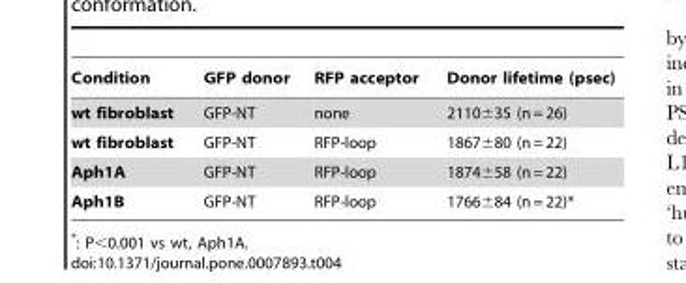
<table><thead><tr><td>Condition</td><td>GFP donor</td><td>RFP acceptor</td><td>Donor lifetime (psec)</td></tr></thead><tbody><tr><td>wt fibroblast</td><td>GFP-NT</td><td>none</td><td>2110±35 (n = 26)</td></tr><tr><td>wt fibroblast</td><td>GFP-NT</td><td>RFP-loop</td><td>1867±80 (n = 22)</td></tr><tr><td>Aph1A</td><td>GFP-NT</td><td>RFP-loop</td><td>1874±58 (n = 22)</td></tr><tr><td>Aph1B</td><td>GFP-NT</td><td>RFP-loop</td><td>1766±84 (n = 22)*</td></tr></tbody></table>